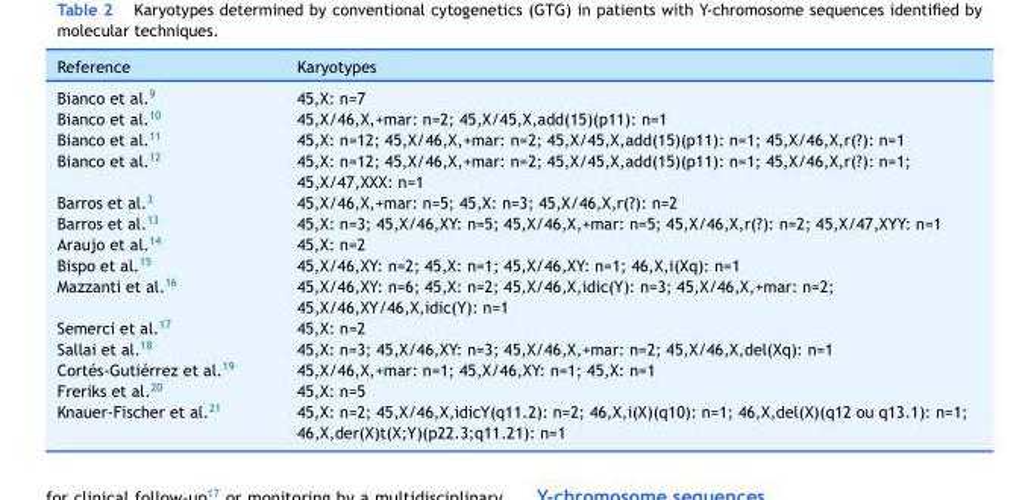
<table><thead><tr><td>Reference</td><td>Karyotypes</td></tr></thead><tbody><tr><td>Bianco et al.9</td><td>45,X: n=7</td></tr><tr><td>Bianco et al.10</td><td>45,X/46,X,+mar: n=2; 45,X/45,X,add(15)(p11): n=1</td></tr><tr><td>Bianco et al.11</td><td>45,X: n=12; 45,X/46,X,+mar: n=2; 45,X/45,X,add(15)(p11): n=1; 45,X/46,X,r(?): n=1</td></tr><tr><td>Bianco et al.12</td><td>45,X: n=12; 45,X/46,X,+mar: n=2; 45,X/45,X,add(15)(p11): n=1; 45,X/46,X,r(?): n=1; 45,X/47,XXX: n=1</td></tr><tr><td>Barros et al.3</td><td>45,X/46,X,+mar: n=5; 45,X: n=3; 45,X/46,X,r(?): n=2</td></tr><tr><td>Barros et al.13</td><td>45,X: n=3; 45,X/46,XY: n=5; 45,X/46,X,+mar: n=5; 45,X/46,X,r(?): n=2; 45,X/47,XYY: n=1</td></tr><tr><td>Araujo et al.14</td><td>45,X: n=2</td></tr><tr><td>Bispo et al.15</td><td>45,X/46,XY: n=2; 45,X: n=1; 45,X/46,XY: n=1; 46,X,i(Xq): n=1</td></tr><tr><td>Mazzanti et al.16</td><td>45,X/46,XY: n=6; 45,X: n=2; 45,X/46,X,idic(Y): n=3; 45,X/46,X,+mar: n=2; 45,X/46,XY/46,X,idic(Y): n=1</td></tr><tr><td>Semerci et al.17</td><td>45,X: n=2</td></tr><tr><td>Sallai et al.18</td><td>45,X: n=3; 45,X/46,XY: n=3; 45,X/46,X,+mar: n=2; 45,X/46,X,del(Xq): n=1</td></tr><tr><td>Cortés-Gutiérrez et al.19</td><td>45,X/46,X,+mar: n=1; 45,X/46,XY: n=1; 45,X: n=1</td></tr><tr><td>Freriks et al.20</td><td>45,X: n=5</td></tr><tr><td>Knauer-Fischer et al.21</td><td>45,X: n=2; 45,X/46,X,idicY(q11.2): n=2; 46,X,i(X)(q10): n=1; 46,X,del(X)(q12 ou q13.1): n=1; 46,X,der(X)t(X;Y)(p22.3;q11.21): n=1</td></tr></tbody></table>